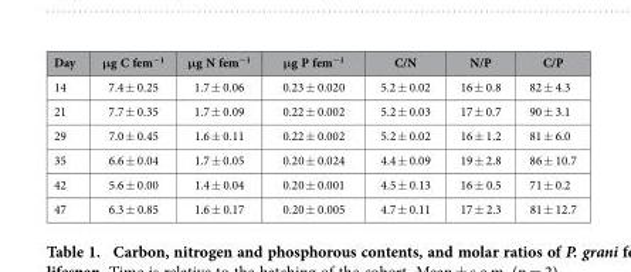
<table><thead><tr><td>Day</td><td>μg C fem<sup>−1</sup></td><td>μg N fem<sup>−1</sup></td><td>μg P fem<sup>−1</sup></td><td>C/N</td><td>N/P</td><td>C/P</td></tr></thead><tbody><tr><td>14</td><td>7.4 ± 0.25</td><td>1.7 ± 0.06</td><td>0.23 ± 0.020</td><td>5.2 ± 0.02</td><td>16 ± 0.8</td><td>82 ± 4.3</td></tr><tr><td>21</td><td>7.7 ± 0.35</td><td>1.7 ± 0.09</td><td>0.22 ± 0.002</td><td>5.2 ± 0.03</td><td>17 ± 0.7</td><td>90 ± 3.1</td></tr><tr><td>29</td><td>7.0 ± 0.45</td><td>1.6 ± 0.11</td><td>0.22 ± 0.002</td><td>5.2 ± 0.02</td><td>16 ± 1.2</td><td>81 ± 6.0</td></tr><tr><td>35</td><td>6.6 ± 0.04</td><td>1.7 ± 0.05</td><td>0.20 ± 0.024</td><td>4.4 ± 0.09</td><td>19 ± 2.8</td><td>86 ± 10.7</td></tr><tr><td>42</td><td>5.6 ± 0.00</td><td>1.4 ± 0.04</td><td>0.20 ± 0.001</td><td>4.5 ± 0.13</td><td>16 ± 0.5</td><td>71 ± 0.2</td></tr><tr><td>47</td><td>6.3 ± 0.85</td><td>1.6 ± 0.17</td><td>0.20 ± 0.005</td><td>4.7 ± 0.11</td><td>17 ± 2.3</td><td>81 ± 12.7</td></tr></tbody></table>